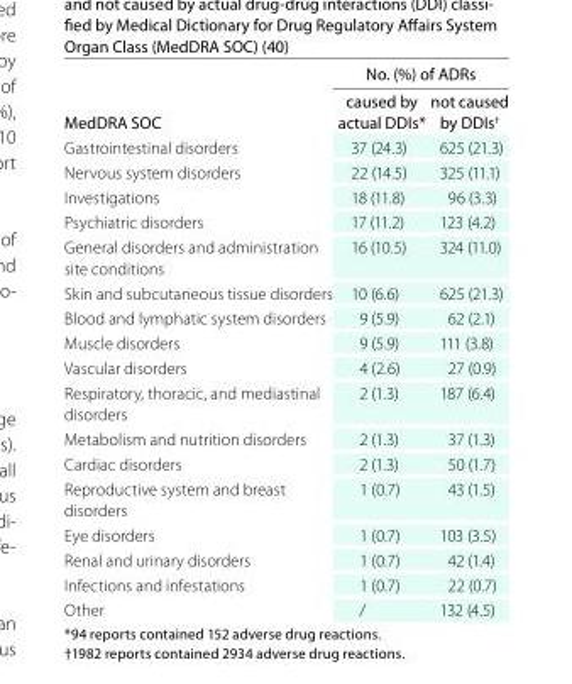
<table><thead><tr><td rowspan="2">MedDRa SoC</td><td colspan="2">No. (%) of aDRs</td></tr><tr><td>caused by actual DDIs*</td><td>not caused by DDIs<sup>†</sup></td></tr></thead><tbody><tr><td>Gastrointestinal disorders</td><td>37 (24.3)</td><td>625 (21.3)</td></tr><tr><td>Nervous system disorders</td><td>22 (14.5)</td><td>325 (11.1)</td></tr><tr><td>Investigations</td><td>18 (11.8)</td><td>96 (3.3)</td></tr><tr><td>Psychiatric disorders</td><td>17 (11.2)</td><td>123 (4.2)</td></tr><tr><td>General disorders and administration site conditions</td><td>16 (10.5)</td><td>324 (11.0)</td></tr><tr><td>Skin and subcutaneous tissue disorders</td><td>10 (6.6)</td><td>625 (21.3)</td></tr><tr><td>Blood and lymphatic system disorders</td><td>9 (5.9)</td><td>62 (2.1)</td></tr><tr><td>Muscle disorders</td><td>9 (5.9)</td><td>111 (3.8)</td></tr><tr><td>Vascular disorders</td><td>4 (2.6)</td><td>27 (0.9)</td></tr><tr><td>Respiratory, thoracic, and mediastinal disorders</td><td>2 (1.3)</td><td>187 (6.4)</td></tr><tr><td>Metabolism and nutrition disorders</td><td>2 (1.3)</td><td>37 (1.3)</td></tr><tr><td>Cardiac disorders</td><td>2 (1.3)</td><td>50 (1.7)</td></tr><tr><td>Reproductive system and breast disorders</td><td>1 (0.7)</td><td>43 (1.5)</td></tr><tr><td>Eye disorders</td><td>1 (0.7)</td><td>103 (3.5)</td></tr><tr><td>Renal and urinary disorders</td><td>1 (0.7)</td><td>42 (1.4)</td></tr><tr><td>Infections and infestations</td><td>1 (0.7)</td><td>22 (0.7)</td></tr><tr><td>Other</td><td>/</td><td>132 (4.5)</td></tr></tbody></table>